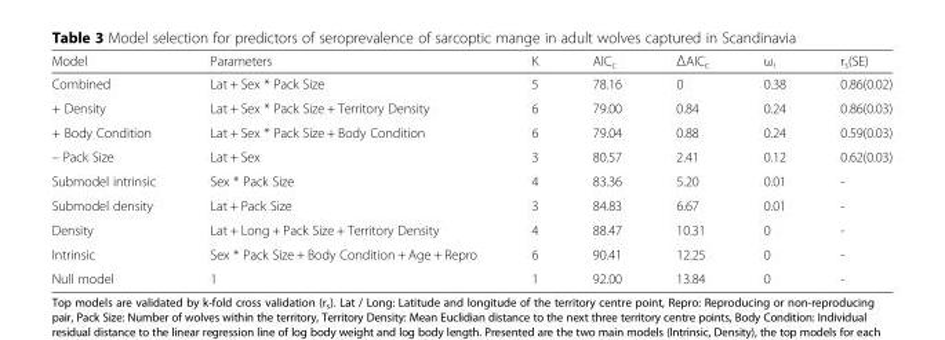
<table><thead><tr><td>Model</td><td>Parameters</td><td>K</td><td>AIC<sub>c</sub></td><td>ΔAIC<sub>c</sub></td><td>ω<sub>i</sub></td><td>r<sub>s</sub>(SE)</td></tr></thead><tbody><tr><td>Combined</td><td>Lat + Sex * Pack Size</td><td>5</td><td>78.16</td><td>0</td><td>0.38</td><td>0.86(0.02)</td></tr><tr><td>+ Density</td><td>Lat + Sex * Pack Size + Territory Density</td><td>6</td><td>79.00</td><td>0.84</td><td>0.24</td><td>0.86(0.03)</td></tr><tr><td>+ Body Condition</td><td>Lat + Sex * Pack Size + Body Condition</td><td>6</td><td>79.04</td><td>0.88</td><td>0.24</td><td>0.59(0.03)</td></tr><tr><td>– Pack Size</td><td>Lat + Sex</td><td>3</td><td>80.57</td><td>2.41</td><td>0.12</td><td>0.62(0.03)</td></tr><tr><td>Submodel intrinsic</td><td>Sex * Pack Size</td><td>4</td><td>83.36</td><td>5.20</td><td>0.01</td><td>-</td></tr><tr><td>Submodel density</td><td>Lat + Pack Size</td><td>3</td><td>84.83</td><td>6.67</td><td>0.01</td><td>-</td></tr><tr><td>Density</td><td>Lat + Long + Pack Size + Territory Density</td><td>4</td><td>88.47</td><td>10.31</td><td>0</td><td>-</td></tr><tr><td>Intrinsic</td><td>Sex * Pack Size + Body Condition + Age + Repro</td><td>6</td><td>90.41</td><td>12.25</td><td>0</td><td>-</td></tr><tr><td>Null model</td><td>1</td><td>1</td><td>92.00</td><td>13.84</td><td>0</td><td>-</td></tr></tbody></table>